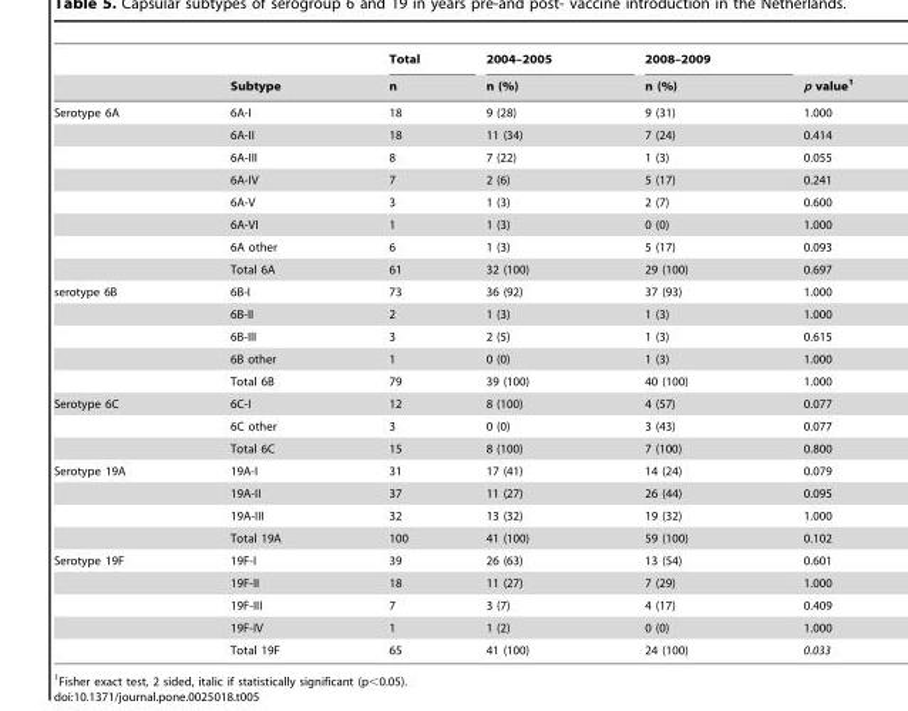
<table><thead><tr><td rowspan="2"></td><td rowspan="2">Subtype</td><td rowspan="2">Total n</td><td rowspan="2">2004–2005 n (%)</td><td rowspan="2">2008–2009 n (%)</td><td rowspan="2">p value<sup>1</sup></td></tr><tr></tr></thead><tbody><tr><td rowspan="8">Serotype 6A</td><td>6A-I</td><td>18</td><td>9 (28)</td><td>9 (31)</td><td>1.000</td></tr><tr><td>6A-II</td><td>18</td><td>11 (34)</td><td>7 (24)</td><td>0.414</td></tr><tr><td>6A-III</td><td>8</td><td>7 (22)</td><td>1 (3)</td><td>0.055</td></tr><tr><td>6A-IV</td><td>7</td><td>2 (6)</td><td>5 (17)</td><td>0.241</td></tr><tr><td>6A-V</td><td>3</td><td>1 (3)</td><td>2 (7)</td><td>0.600</td></tr><tr><td>6A-VI</td><td>1</td><td>1 (3)</td><td>0 (0)</td><td>1.000</td></tr><tr><td>6A other</td><td>6</td><td>1 (3)</td><td>5 (17)</td><td>0.093</td></tr><tr><td>Total 6A</td><td>61</td><td>32 (100)</td><td>29 (100)</td><td>0.697</td></tr><tr><td rowspan="5">serotype 6B</td><td>6B-I</td><td>73</td><td>36 (92)</td><td>37 (93)</td><td>1.000</td></tr><tr><td>6B-II</td><td>2</td><td>1 (3)</td><td>1 (3)</td><td>1.000</td></tr><tr><td>6B-III</td><td>3</td><td>2 (5)</td><td>1 (3)</td><td>0.615</td></tr><tr><td>6B other</td><td>1</td><td>0 (0)</td><td>1 (3)</td><td>1.000</td></tr><tr><td>Total 6B</td><td>79</td><td>39 (100)</td><td>40 (100)</td><td>1.000</td></tr><tr><td rowspan="3">Serotype 6C</td><td>6C-I</td><td>12</td><td>8 (100)</td><td>4 (57)</td><td>0.077</td></tr><tr><td>6C other</td><td>3</td><td>0 (0)</td><td>3 (43)</td><td>0.077</td></tr><tr><td>Total 6C</td><td>15</td><td>8 (100)</td><td>7 (100)</td><td>0.800</td></tr><tr><td rowspan="4">Serotype 19A</td><td>19A-I</td><td>31</td><td>17 (41)</td><td>14 (24)</td><td>0.079</td></tr><tr><td>19A-II</td><td>37</td><td>11 (27)</td><td>26 (44)</td><td>0.095</td></tr><tr><td>19A-III</td><td>32</td><td>13 (32)</td><td>19 (32)</td><td>1.000</td></tr><tr><td>Total 19A</td><td>100</td><td>41 (100)</td><td>59 (100)</td><td>0.102</td></tr><tr><td rowspan="5">Serotype 19F</td><td>19F-I</td><td>39</td><td>26 (63)</td><td>13 (54)</td><td>0.601</td></tr><tr><td>19F-II</td><td>18</td><td>11 (27)</td><td>7 (29)</td><td>1.000</td></tr><tr><td>19F-III</td><td>7</td><td>3 (7)</td><td>4 (17)</td><td>0.409</td></tr><tr><td>19F-IV</td><td>1</td><td>1 (2)</td><td>0 (0)</td><td>1.000</td></tr><tr><td>Total 19F</td><td>65</td><td>41 (100)</td><td>24 (100)</td><td>0.033</td></tr></tbody></table>